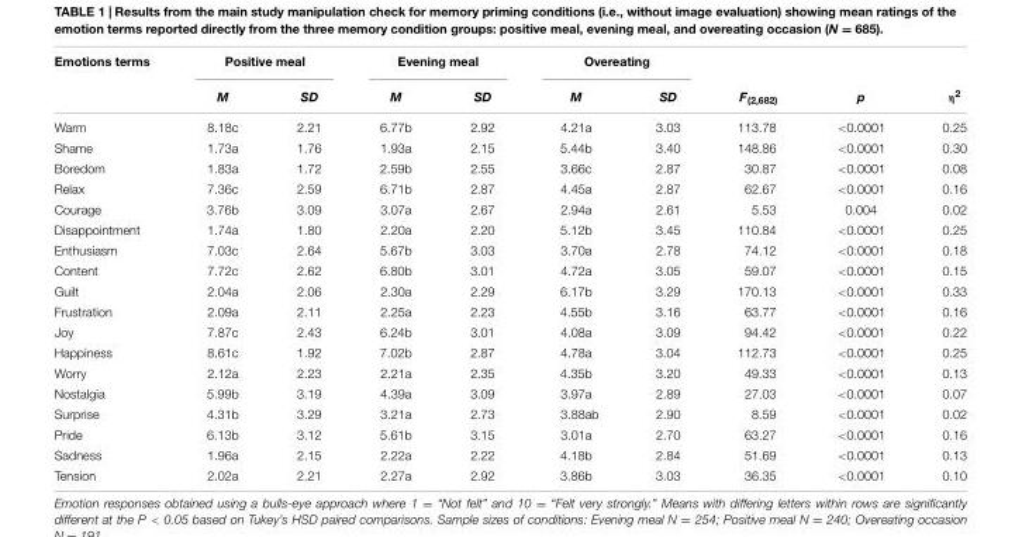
<table><thead><tr><td rowspan="2">Emotions terms</td><td colspan="2">Positive meal</td><td colspan="2">Evening meal</td><td colspan="2">Overeating</td><td rowspan="2">F<sub>(2,682)</sub></td><td rowspan="2">p</td><td rowspan="2">η<sup>2</sup></td></tr><tr><td>M</td><td>SD</td><td>M</td><td>SD</td><td>M</td><td>SD</td></tr></thead><tbody><tr><td>Warm</td><td>8.18c</td><td>2.21</td><td>6.77b</td><td>2.92</td><td>4.21a</td><td>3.03</td><td>113.78</td><td>&lt;0.0001</td><td>0.25</td></tr><tr><td>Shame</td><td>1.73a</td><td>1.76</td><td>1.93a</td><td>2.15</td><td>5.44b</td><td>3.40</td><td>148.86</td><td>&lt;0.0001</td><td>0.30</td></tr><tr><td>Boredom</td><td>1.83a</td><td>1.72</td><td>2.59b</td><td>2.55</td><td>3.66c</td><td>2.87</td><td>30.87</td><td>&lt;0.0001</td><td>0.08</td></tr><tr><td>Relax</td><td>7.36c</td><td>2.59</td><td>6.71b</td><td>2.87</td><td>4.45a</td><td>2.87</td><td>62.67</td><td>&lt;0.0001</td><td>0.16</td></tr><tr><td>Courage</td><td>3.76b</td><td>3.09</td><td>3.07a</td><td>2.67</td><td>2.94a</td><td>2.61</td><td>5.53</td><td>0.004</td><td>0.02</td></tr><tr><td>Disappointment</td><td>1.74a</td><td>1.80</td><td>2.20a</td><td>2.20</td><td>5.12b</td><td>3.45</td><td>110.84</td><td>&lt;0.0001</td><td>0.25</td></tr><tr><td>Enthusiasm</td><td>7.03c</td><td>2.64</td><td>5.67b</td><td>3.03</td><td>3.70a</td><td>2.78</td><td>74.12</td><td>&lt;0.0001</td><td>0.18</td></tr><tr><td>Content</td><td>7.72c</td><td>2.62</td><td>6.80b</td><td>3.01</td><td>4.72a</td><td>3.05</td><td>59.07</td><td>&lt;0.0001</td><td>0.15</td></tr><tr><td>Guilt</td><td>2.04a</td><td>2.06</td><td>2.30a</td><td>2.29</td><td>6.17b</td><td>3.29</td><td>170.13</td><td>&lt;0.0001</td><td>0.33</td></tr><tr><td>Frustration</td><td>2.09a</td><td>2.11</td><td>2.25a</td><td>2.23</td><td>4.55b</td><td>3.16</td><td>63.77</td><td>&lt;0.0001</td><td>0.16</td></tr><tr><td>Joy</td><td>7.87c</td><td>2.43</td><td>6.24b</td><td>3.01</td><td>4.08a</td><td>3.09</td><td>94.42</td><td>&lt;0.0001</td><td>0.22</td></tr><tr><td>Happiness</td><td>8.61c</td><td>1.92</td><td>7.02b</td><td>2.87</td><td>4.78a</td><td>3.04</td><td>112.73</td><td>&lt;0.0001</td><td>0.25</td></tr><tr><td>Worry</td><td>2.12a</td><td>2.23</td><td>2.21a</td><td>2.35</td><td>4.35b</td><td>3.20</td><td>49.33</td><td>&lt;0.0001</td><td>0.13</td></tr><tr><td>Nostalgia</td><td>5.99b</td><td>3.19</td><td>4.39a</td><td>3.09</td><td>3.97a</td><td>2.89</td><td>27.03</td><td>&lt;0.0001</td><td>0.07</td></tr><tr><td>Surprise</td><td>4.31b</td><td>3.29</td><td>3.21a</td><td>2.73</td><td>3.88ab</td><td>2.90</td><td>8.59</td><td>&lt;0.0001</td><td>0.02</td></tr><tr><td>Pride</td><td>6.13b</td><td>3.12</td><td>5.61b</td><td>3.15</td><td>3.01a</td><td>2.70</td><td>63.27</td><td>&lt;0.0001</td><td>0.16</td></tr><tr><td>Sadness</td><td>1.96a</td><td>2.15</td><td>2.22a</td><td>2.22</td><td>4.18b</td><td>2.84</td><td>51.69</td><td>&lt;0.0001</td><td>0.13</td></tr><tr><td>Tension</td><td>2.02a</td><td>2.21</td><td>2.27a</td><td>2.92</td><td>3.86b</td><td>3.03</td><td>36.35</td><td>&lt;0.0001</td><td>0.10</td></tr></tbody></table>